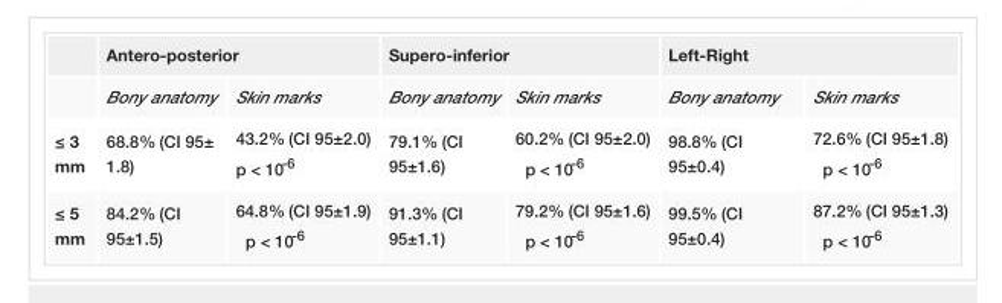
<table><thead><tr><td rowspan="2"></td><td colspan="2">Antero-posterior</td><td colspan="2">Supero-inferior</td><td colspan="2">Left-Right</td></tr><tr><td>Bony anatomy</td><td>Skin marks</td><td>Bony anatomy</td><td>Skin marks</td><td>Bony anatomy</td><td>Skin marks</td></tr></thead><tbody><tr><td>≤ 3 mm</td><td>68.8% (CI 95± 1.8)</td><td>43.2% (CI 95±2.0) p &lt; 10<sup>-6</sup></td><td>79.1% (CI 95±1.6)</td><td>60.2% (CI 95±2.0) p &lt; 10<sup>-6</sup></td><td>98.8% (CI 95±0.4)</td><td>72.6% (CI 95±1.8) p &lt; 10<sup>-6</sup></td></tr><tr><td>≤ 5 mm</td><td>84.2% (CI 95±1.5)</td><td>64.8% (CI 95±1.9) p &lt; 10<sup>-6</sup></td><td>91.3% (CI 95±1.1)</td><td>79.2% (CI 95±1.6) p &lt; 10<sup>-6</sup></td><td>99.5% (CI 95±0.4)</td><td>87.2% (CI 95±1.3) p &lt; 10<sup>-6</sup></td></tr></tbody></table>